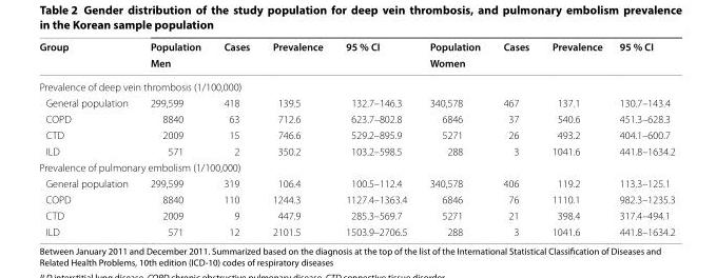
<table><thead><tr><td rowspan="2">Group</td><td>Population</td><td>Cases</td><td>Prevalence</td><td>95 % CI</td><td>Population</td><td>Cases</td><td>Prevalence</td><td>95 % CI</td></tr><tr><td colspan="4">Men</td><td colspan="4">Women</td></tr></thead><tbody><tr><td colspan="9">Prevalence of deep vein thrombosis (1/100,000)</td></tr><tr><td>General population</td><td>299,599</td><td>418</td><td>139.5</td><td>132.7–146.3</td><td>340,578</td><td>467</td><td>137.1</td><td>130.7–143.4</td></tr><tr><td>COPD</td><td>8840</td><td>63</td><td>712.6</td><td>623.7–802.8</td><td>6846</td><td>37</td><td>540.6</td><td>451.3–628.3</td></tr><tr><td>CTD</td><td>2009</td><td>15</td><td>746.6</td><td>529.2–895.9</td><td>5271</td><td>26</td><td>493.2</td><td>404.1–600.7</td></tr><tr><td>ILD</td><td>571</td><td>2</td><td>350.2</td><td>103.2–598.5</td><td>288</td><td>3</td><td>1041.6</td><td>441.8–1634.2</td></tr><tr><td colspan="9">Prevalence of pulmonary embolism (1/100,000)</td></tr><tr><td>General population</td><td>299,599</td><td>319</td><td>106.4</td><td>100.5–112.4</td><td>340,578</td><td>406</td><td>119.2</td><td>113.3–125.1</td></tr><tr><td>COPD</td><td>8840</td><td>110</td><td>1244.3</td><td>1127.4–1363.4</td><td>6846</td><td>76</td><td>1110.1</td><td>982.3–1235.3</td></tr><tr><td>CTD</td><td>2009</td><td>9</td><td>447.9</td><td>285.3–569.7</td><td>5271</td><td>21</td><td>398.4</td><td>317.4–494.1</td></tr><tr><td>ILD</td><td>571</td><td>12</td><td>2101.5</td><td>1503.9–2706.5</td><td>288</td><td>3</td><td>1041.6</td><td>441.8–1634.2</td></tr></tbody></table>